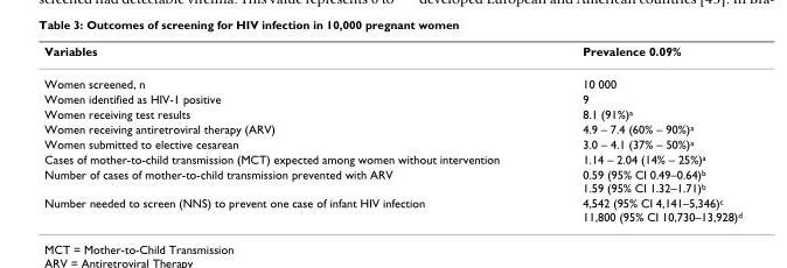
<table><thead><tr><td>Variables</td><td>Prevalence 0.09%</td></tr></thead><tbody><tr><td>Women screened, n</td><td>10 000</td></tr><tr><td>Women identified as HIV-1 positive</td><td>9</td></tr><tr><td>Women receiving test results</td><td>8.1 (91%)<sup>a</sup></td></tr><tr><td>Women receiving antiretroviral therapy (ARV)</td><td>4.9 – 7.4 (60% – 90%)<sup>a</sup></td></tr><tr><td>Women submitted to elective cesarean</td><td>3.0 – 4.1 (37% – 50%)<sup>a</sup></td></tr><tr><td>Cases of mother-to-child transmission (MCT) expected among women without intervention</td><td>1.14 – 2.04 (14% – 25%)<sup>a</sup></td></tr><tr><td>Number of cases of mother-to-child transmission prevented with ARV</td><td>0.59 (95% CI 0.49–0.64)<sup>b</sup> 1.59 (95% CI 1.32–1.71)<sup>b</sup></td></tr><tr><td>Number needed to screen (NNS) to prevent one case of infant HIV infection</td><td>4,542 (95% CI 4,141–5,346)<sup>c</sup> 11,800 (95% CI 10,730–13,928)<sup>d</sup></td></tr></tbody></table>